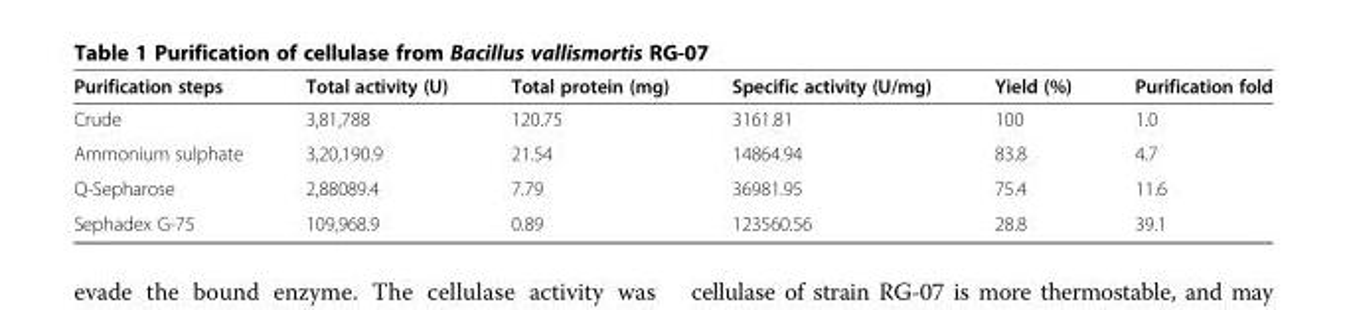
<table><thead><tr><td>Purification steps</td><td>Total activity (U)</td><td>Total protein (mg)</td><td>Specific activity (U/mg)</td><td>Yield (%)</td><td>Purification fold</td></tr></thead><tbody><tr><td>Crude</td><td>3,81,788</td><td>120.75</td><td>3161.81</td><td>100</td><td>1.0</td></tr><tr><td>Ammonium sulphate</td><td>3,20,190.9</td><td>21.54</td><td>14864.94</td><td>83.8</td><td>4.7</td></tr><tr><td>Q-Sepharose</td><td>2,88089.4</td><td>7.79</td><td>36981.95</td><td>75.4</td><td>11.6</td></tr><tr><td>Sephadex G-75</td><td>109,968.9</td><td>0.89</td><td>123560.56</td><td>28.8</td><td>39.1</td></tr></tbody></table>